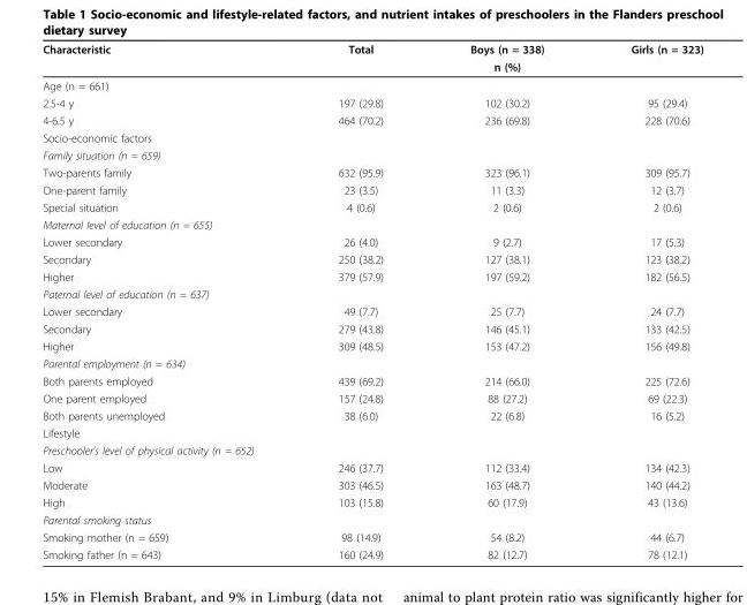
<table><thead><tr><td rowspan="2">Characteristic</td><td rowspan="2">Total</td><td rowspan="2">Boys (n = 338) n (%)</td><td rowspan="2">Girls (n = 323)</td></tr><tr></tr></thead><tbody><tr><td colspan="4">Age (n = 661)</td></tr><tr><td>2.5-4 y</td><td>197 (29.8)</td><td>102 (30.2)</td><td>95 (29.4)</td></tr><tr><td>4-6.5 y</td><td>464 (70.2)</td><td>236 (69.8)</td><td>228 (70.6)</td></tr><tr><td colspan="4">Socio-economic factors</td></tr><tr><td colspan="4">Family situation (n = 659)</td></tr><tr><td>Two-parents family</td><td>632 (95.9)</td><td>323 (96.1)</td><td>309 (95.7)</td></tr><tr><td>One-parent family</td><td>23 (3.5)</td><td>11 (3.3)</td><td>12 (3.7)</td></tr><tr><td>Special situation</td><td>4 (0.6)</td><td>2 (0.6)</td><td>2 (0.6)</td></tr><tr><td colspan="4">Maternal level of education (n = 655)</td></tr><tr><td>Lower secondary</td><td>26 (4.0)</td><td>9 (2.7)</td><td>17 (5.3)</td></tr><tr><td>Secondary</td><td>250 (38.2)</td><td>127 (38.1)</td><td>123 (38.2)</td></tr><tr><td>Higher</td><td>379 (57.9)</td><td>197 (59.2)</td><td>182 (56.5)</td></tr><tr><td colspan="4">Paternal level of education (n = 637)</td></tr><tr><td>Lower secondary</td><td>49 (7.7)</td><td>25 (7.7)</td><td>24 (7.7)</td></tr><tr><td>Secondary</td><td>279 (43.8)</td><td>146 (45.1)</td><td>133 (42.5)</td></tr><tr><td>Higher</td><td>309 (48.5)</td><td>153 (47.2)</td><td>156 (49.8)</td></tr><tr><td colspan="4">Parental employment (n = 634)</td></tr><tr><td>Both parents employed</td><td>439 (69.2)</td><td>214 (66.0)</td><td>225 (72.6)</td></tr><tr><td>One parent employed</td><td>157 (24.8)</td><td>88 (27.2)</td><td>69 (22.3)</td></tr><tr><td>Both parents unemployed</td><td>38 (6.0)</td><td>22 (6.8)</td><td>16 (5.2)</td></tr><tr><td colspan="4">Lifestyle</td></tr><tr><td colspan="4">Preschooler’s level of physical activity (n = 652)</td></tr><tr><td>Low</td><td>246 (37.7)</td><td>112 (33.4)</td><td>134 (42.3)</td></tr><tr><td>Moderate</td><td>303 (46.5)</td><td>163 (48.7)</td><td>140 (44.2)</td></tr><tr><td>High</td><td>103 (15.8)</td><td>60 (17.9)</td><td>43 (13.6)</td></tr><tr><td colspan="4">Parental smoking status</td></tr><tr><td>Smoking mother (n = 659)</td><td>98 (14.9)</td><td>54 (8.2)</td><td>44 (6.7)</td></tr><tr><td>Smoking father (n = 643)</td><td>160 (24.9)</td><td>82 (12.7)</td><td>78 (12.1)</td></tr></tbody></table>